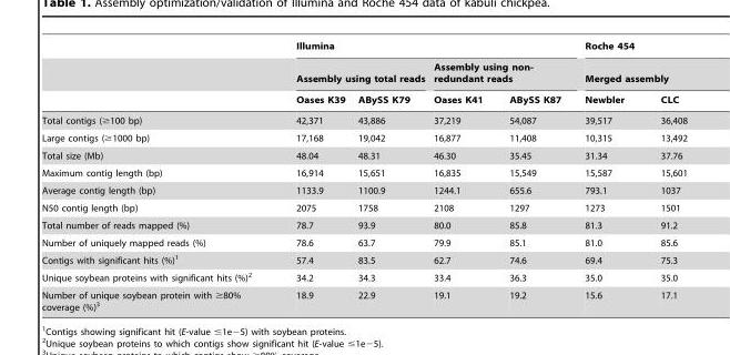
<table><thead><tr><td rowspan="3"></td><td colspan="4">Illumina</td><td rowspan="2" colspan="2">Roche 454 Merged assembly</td></tr><tr><td colspan="2">Assembly using total reads</td><td colspan="2">Assembly using non- redundant reads</td></tr><tr><td>Oases K39</td><td>ABySS K79</td><td>Oases K41</td><td>ABySS K87</td><td>Newbler</td><td>CLC</td></tr></thead><tbody><tr><td>Total contigs (≥100 bp)</td><td>42,371</td><td>43,886</td><td>37,219</td><td>54,087</td><td>39,517</td><td>36,408</td></tr><tr><td>Large contigs (≥1000 bp)</td><td>17,168</td><td>19,042</td><td>16,877</td><td>11,408</td><td>10,315</td><td>13,492</td></tr><tr><td>Total size (Mb)</td><td>48.04</td><td>48.31</td><td>46.30</td><td>35.45</td><td>31.34</td><td>37.76</td></tr><tr><td>Maximum contig length (bp)</td><td>16,914</td><td>15,651</td><td>16,835</td><td>15,549</td><td>15,587</td><td>15,601</td></tr><tr><td>Average contig length (bp)</td><td>1133.9</td><td>1100.9</td><td>1244.1</td><td>655.6</td><td>793.1</td><td>1037</td></tr><tr><td>N50 contig length (bp)</td><td>2075</td><td>1758</td><td>2108</td><td>1297</td><td>1273</td><td>1501</td></tr><tr><td>Total number of reads mapped (%)</td><td>78.7</td><td>93.9</td><td>80.0</td><td>85.8</td><td>81.3</td><td>91.2</td></tr><tr><td>Number of uniquely mapped reads (%)</td><td>78.6</td><td>63.7</td><td>79.9</td><td>85.1</td><td>81.0</td><td>85.6</td></tr><tr><td>Contigs with significant hits (%)<sup>1</sup></td><td>57.4</td><td>83.5</td><td>62.7</td><td>74.6</td><td>69.4</td><td>75.3</td></tr><tr><td>Unique soybean proteins with significant hits (%)<sup>2</sup></td><td>34.2</td><td>34.3</td><td>33.4</td><td>36.3</td><td>35.0</td><td>35.0</td></tr><tr><td>Number of unique soybean protein with ≥80% coverage (%)<sup>3</sup></td><td>18.9</td><td>22.9</td><td>19.1</td><td>19.2</td><td>15.6</td><td>17.1</td></tr></tbody></table>